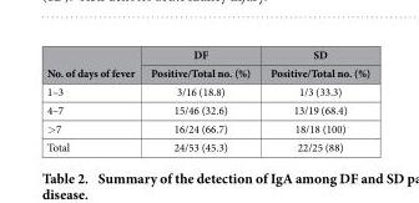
<table><thead><tr><td rowspan="2">No. of days of fever</td><td rowspan="2">DF Positive/Total no. (%)</td><td rowspan="2">SD Positive/Total no. (%)</td></tr><tr></tr></thead><tbody><tr><td>1–3</td><td>3/16 (18.8)</td><td>1/3 (33.3)</td></tr><tr><td>4–7</td><td>15/46 (32.6)</td><td>13/19 (68.4)</td></tr><tr><td>&gt; 7</td><td>16/24 (66.7)</td><td>18/18 (100)</td></tr><tr><td>Total</td><td>24/53 (45.3)</td><td>22/25 (88)</td></tr></tbody></table>